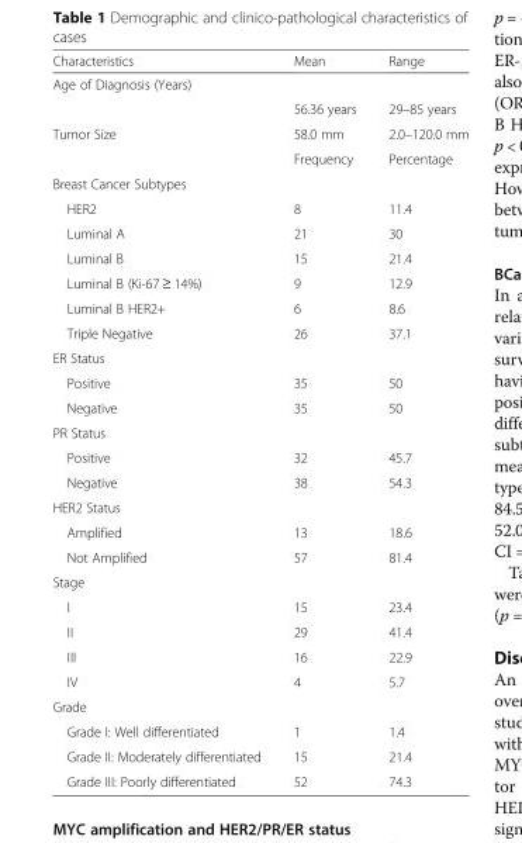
<table><thead><tr><td>Characteristics</td><td>Mean</td><td>Range</td></tr></thead><tbody><tr><td colspan="3">Age of Diagnosis (Years)</td></tr><tr><td></td><td>56.36 years</td><td>29–85 years</td></tr><tr><td rowspan="2">Tumor Size</td><td>58.0 mm</td><td>2.0–120.0 mm</td></tr><tr><td>Frequency</td><td>Percentage</td></tr><tr><td colspan="3">Breast Cancer Subtypes</td></tr><tr><td>HER2</td><td>8</td><td>11.4</td></tr><tr><td>Luminal A</td><td>21</td><td>30</td></tr><tr><td>Luminal B</td><td>15</td><td>21.4</td></tr><tr><td>Luminal B (Ki-67 ≥ 14%)</td><td>9</td><td>12.9</td></tr><tr><td>Luminal B HER2+</td><td>6</td><td>8.6</td></tr><tr><td>Triple Negative</td><td>26</td><td>37.1</td></tr><tr><td colspan="3">ER Status</td></tr><tr><td>Positive</td><td>35</td><td>50</td></tr><tr><td>Negative</td><td>35</td><td>50</td></tr><tr><td colspan="3">PR Status</td></tr><tr><td>Positive</td><td>32</td><td>45.7</td></tr><tr><td>Negative</td><td>38</td><td>54.3</td></tr><tr><td colspan="3">HER2 Status</td></tr><tr><td>Amplified</td><td>13</td><td>18.6</td></tr><tr><td>Not Amplified</td><td>57</td><td>81.4</td></tr><tr><td colspan="3">Stage</td></tr><tr><td>I</td><td>15</td><td>23.4</td></tr><tr><td>II</td><td>29</td><td>41.4</td></tr><tr><td>III</td><td>16</td><td>22.9</td></tr><tr><td>IV</td><td>4</td><td>5.7</td></tr><tr><td colspan="3">Grade</td></tr><tr><td>Grade I: Well differentiated</td><td>1</td><td>1.4</td></tr><tr><td>Grade II: Moderately differentiated</td><td>15</td><td>21.4</td></tr><tr><td>Grade III: Poorly differentiated</td><td>52</td><td>74.3</td></tr></tbody></table>